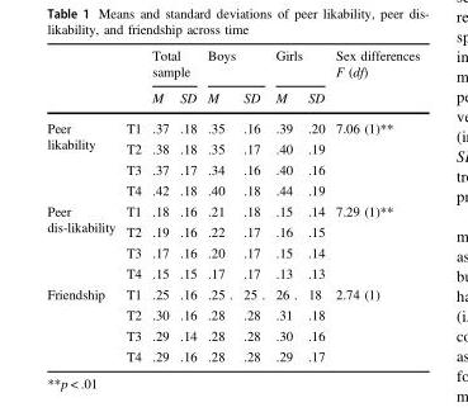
<table><thead><tr><td rowspan="2"></td><td rowspan="2"></td><td colspan="2">Total sample</td><td colspan="2">Boys</td><td colspan="2">Girls</td><td rowspan="2">Sex differences F (df)</td></tr><tr><td>M</td><td>SD</td><td>M</td><td>SD</td><td>M</td><td>SD</td></tr></thead><tbody><tr><td rowspan="4">Peer likability</td><td>T1</td><td>.37</td><td>.18</td><td>.35</td><td>.16</td><td>.39</td><td>.20</td><td rowspan="4">7.06 (1)**</td></tr><tr><td>T2</td><td>.38</td><td>.18</td><td>.35</td><td>.17</td><td>.40</td><td>.19</td></tr><tr><td>T3</td><td>.37</td><td>.17</td><td>.34</td><td>.16</td><td>.40</td><td>.16</td></tr><tr><td>T4</td><td>.42</td><td>.18</td><td>.40</td><td>.18</td><td>.44</td><td>.19</td></tr><tr><td rowspan="4">Peer dis-likability</td><td>T1</td><td>.18</td><td>.16</td><td>.21</td><td>.18</td><td>.15</td><td>.14</td><td rowspan="4">7.29 (1)**</td></tr><tr><td>T2</td><td>.19</td><td>.16</td><td>.22</td><td>.17</td><td>.16</td><td>.15</td></tr><tr><td>T3</td><td>.17</td><td>.16</td><td>.20</td><td>.17</td><td>.15</td><td>.14</td></tr><tr><td>T4</td><td>.15</td><td>.15</td><td>.17</td><td>.17</td><td>.13</td><td>.13</td></tr><tr><td rowspan="4">Friendship</td><td>T1</td><td>.25</td><td>.16</td><td>.25 .</td><td>25 .</td><td>26 .</td><td>18</td><td rowspan="4">2.74 (1)</td></tr><tr><td>T2</td><td>.30</td><td>.16</td><td>.28</td><td>.28</td><td>.31</td><td>.18</td></tr><tr><td>T3</td><td>.29</td><td>.14</td><td>.28</td><td>.28</td><td>.30</td><td>.16</td></tr><tr><td>T4</td><td>.29</td><td>.16</td><td>.28</td><td>.28</td><td>.29</td><td>.17</td></tr></tbody></table>